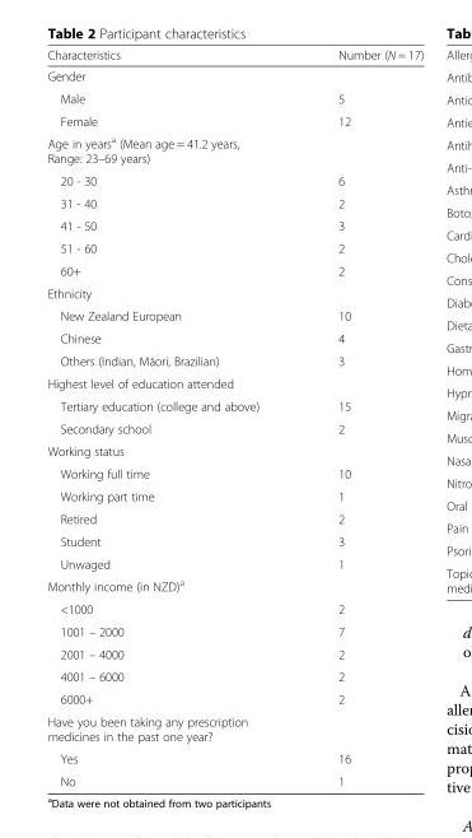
<table><thead><tr><td>Characteristics</td><td>Number (N = 17)</td></tr></thead><tbody><tr><td colspan="2">Gender</td></tr><tr><td>Male</td><td>5</td></tr><tr><td>Female</td><td>12</td></tr><tr><td colspan="2">Age in years<sup>a</sup> (Mean age = 41.2 years, Range: 23–69 years)</td></tr><tr><td>20 - 30</td><td>6</td></tr><tr><td>31 - 40</td><td>2</td></tr><tr><td>41 - 50</td><td>3</td></tr><tr><td>51 - 60</td><td>2</td></tr><tr><td>60+</td><td>2</td></tr><tr><td colspan="2">Ethnicity</td></tr><tr><td>New Zealand European</td><td>10</td></tr><tr><td>Chinese</td><td>4</td></tr><tr><td>Others (Indian, Māori, Brazilian)</td><td>3</td></tr><tr><td colspan="2">Highest level of education attended</td></tr><tr><td>Tertiary education (college and above)</td><td>15</td></tr><tr><td>Secondary school</td><td>2</td></tr><tr><td colspan="2">Working status</td></tr><tr><td>Working full time</td><td>10</td></tr><tr><td>Working part time</td><td>1</td></tr><tr><td>Retired</td><td>2</td></tr><tr><td>Student</td><td>3</td></tr><tr><td>Unwaged</td><td>1</td></tr><tr><td colspan="2">Monthly income (in NZD)<sup>a</sup></td></tr><tr><td>&lt;1000</td><td>2</td></tr><tr><td>1001 – 2000</td><td>7</td></tr><tr><td>2001 – 4000</td><td>2</td></tr><tr><td>4001 – 6000</td><td>2</td></tr><tr><td>6000+</td><td>2</td></tr><tr><td colspan="2">Have you been taking any prescription medicines in the past one year?</td></tr><tr><td>Yes</td><td>16</td></tr><tr><td>No</td><td>1</td></tr></tbody></table>